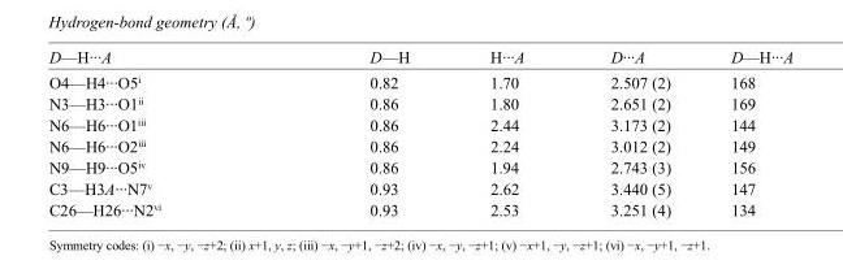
<table><tbody><tr><td>D—H···A</td><td>D—H</td><td>H···A</td><td>D···A</td><td>D—H···A</td></tr><tr><td>O4—H4···O5<sup>i</sup></td><td>0.82</td><td>1.70</td><td>2.507 (2)</td><td>168</td></tr><tr><td>N3—H3···O1<sup>ii</sup></td><td>0.86</td><td>1.80</td><td>2.651 (2)</td><td>169</td></tr><tr><td>N6—H6···O1<sup>iii</sup></td><td>0.86</td><td>2.44</td><td>3.173 (2)</td><td>144</td></tr><tr><td>N6—H6···O2<sup>iii</sup></td><td>0.86</td><td>2.24</td><td>3.012 (2)</td><td>149</td></tr><tr><td>N9—H9···O5<sup>iv</sup></td><td>0.86</td><td>1.94</td><td>2.743 (3)</td><td>156</td></tr><tr><td>C3—H3A···N7<sup>v</sup></td><td>0.93</td><td>2.62</td><td>3.440 (5)</td><td>147</td></tr><tr><td>C26—H26···N2<sup>vi</sup></td><td>0.93</td><td>2.53</td><td>3.251 (4)</td><td>134</td></tr></tbody></table>